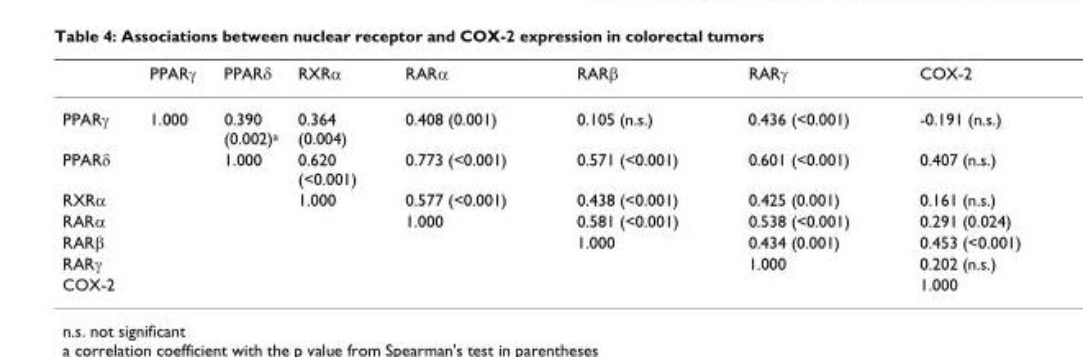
<table><thead><tr><td></td><td>PPARγ</td><td>PPARδ</td><td>RXRα</td><td>RARα</td><td>RARβ</td><td>RARγ</td><td>COX-2</td></tr></thead><tbody><tr><td>PPARγ</td><td>1.000</td><td>0.390 (0.002)<sup>a</sup></td><td>0.364 (0.004)</td><td>0.408 (0.001)</td><td>0.105 (n.s.)</td><td>0.436 (&lt;0.001)</td><td>-0.191 (n.s.)</td></tr><tr><td>PPARδ</td><td></td><td>1.000</td><td>0.620 (&lt;0.001)</td><td>0.773 (&lt;0.001)</td><td>0.571 (&lt;0.001)</td><td>0.601 (&lt;0.001)</td><td>0.407 (n.s.)</td></tr><tr><td>RXRα</td><td></td><td></td><td>1.000</td><td>0.577 (&lt;0.001)</td><td>0.438 (&lt;0.001)</td><td>0.425 (0.001)</td><td>0.161 (n.s.)</td></tr><tr><td>RARα</td><td></td><td></td><td></td><td>1.000</td><td>0.581 (&lt;0.001)</td><td>0.538 (&lt;0.001)</td><td>0.291 (0.024)</td></tr><tr><td>RARβ</td><td></td><td></td><td></td><td></td><td>1.000</td><td>0.434 (0.001)</td><td>0.453 (&lt;0.001)</td></tr><tr><td>RARγ</td><td></td><td></td><td></td><td></td><td></td><td>1.000</td><td>0.202 (n.s.)</td></tr><tr><td>COX-2</td><td></td><td></td><td></td><td></td><td></td><td></td><td>1.000</td></tr></tbody></table>